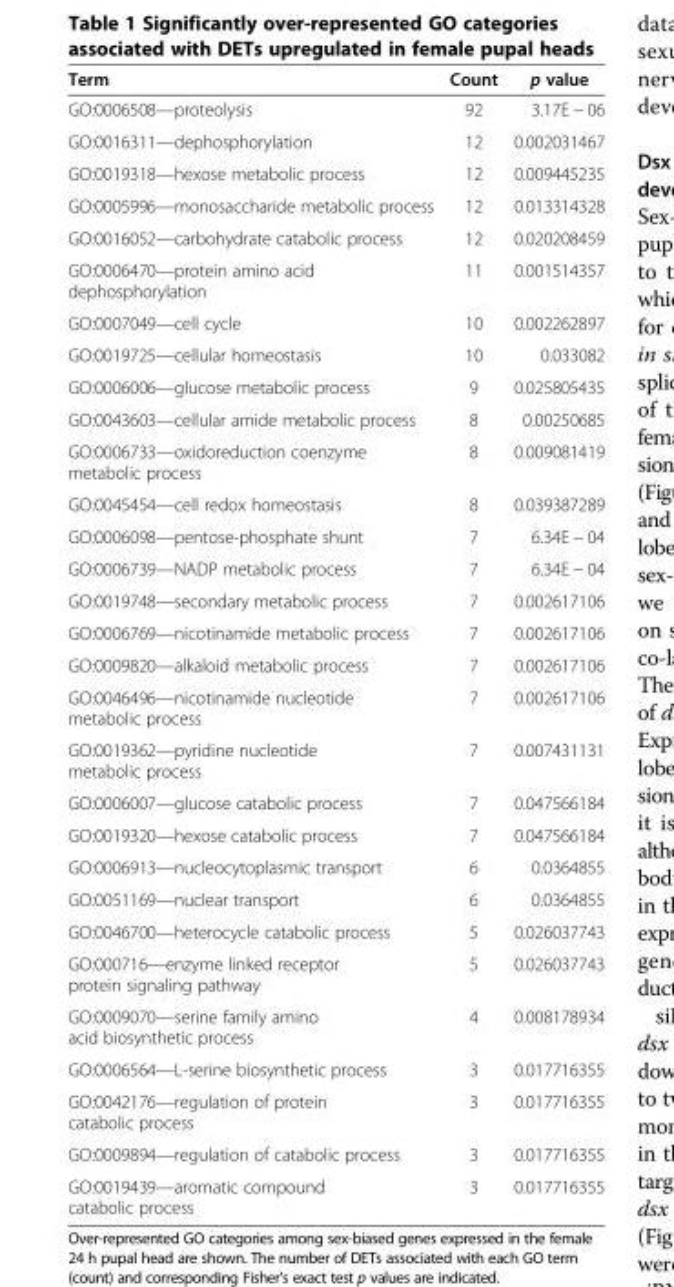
<table><thead><tr><td>Term</td><td>Count</td><td>p value</td></tr></thead><tbody><tr><td>GO:0006508—proteolysis</td><td>92</td><td>3.17E − 06</td></tr><tr><td>GO:0016311—dephosphorylation</td><td>12</td><td>0.002031467</td></tr><tr><td>GO:0019318—hexose metabolic process</td><td>12</td><td>0.009445235</td></tr><tr><td>GO:0005996—monosaccharide metabolic process</td><td>12</td><td>0.013314328</td></tr><tr><td>GO:0016052—carbohydrate catabolic process</td><td>12</td><td>0.020208459</td></tr><tr><td>GO:0006470—protein amino acid dephosphorylation</td><td>11</td><td>0.001514357</td></tr><tr><td>GO:0007049—cell cycle</td><td>10</td><td>0.002262897</td></tr><tr><td>GO:0019725—cellular homeostasis</td><td>10</td><td>0.033082</td></tr><tr><td>GO:0006006—glucose metabolic process</td><td>9</td><td>0.025805435</td></tr><tr><td>GO:0043603—cellular amide metabolic process</td><td>8</td><td>0.00250685</td></tr><tr><td>GO:0006733—oxidoreduction coenzyme metabolic process</td><td>8</td><td>0.009081419</td></tr><tr><td>GO:0045454—cell redox homeostasis</td><td>8</td><td>0.039387289</td></tr><tr><td>GO:0006098—pentose-phosphate shunt</td><td>7</td><td>6.34E − 04</td></tr><tr><td>GO:0006739—NADP metabolic process</td><td>7</td><td>6.34E − 04</td></tr><tr><td>GO:0019748—secondary metabolic process</td><td>7</td><td>0.002617106</td></tr><tr><td>GO:0006769—nicotinamide metabolic process</td><td>7</td><td>0.002617106</td></tr><tr><td>GO:0009820—alkaloid metabolic process</td><td>7</td><td>0.002617106</td></tr><tr><td>GO:0046496—nicotinamide nucleotide metabolic process</td><td>7</td><td>0.002617106</td></tr><tr><td>GO:0019362—pyridine nucleotide metabolic process</td><td>7</td><td>0.007431131</td></tr><tr><td>GO:0006007—glucose catabolic process</td><td>7</td><td>0.047566184</td></tr><tr><td>GO:0019320—hexose catabolic process</td><td>7</td><td>0.047566184</td></tr><tr><td>GO:0006913—nucleocytoplasmic transport</td><td>6</td><td>0.0364855</td></tr><tr><td>GO:0051169—nuclear transport</td><td>6</td><td>0.0364855</td></tr><tr><td>GO:0046700—heterocycle catabolic process</td><td>5</td><td>0.026037743</td></tr><tr><td>GO:000716—enzyme linked receptor protein signaling pathway</td><td>5</td><td>0.026037743</td></tr><tr><td>GO:0009070—serine family amino acid biosynthetic process</td><td>4</td><td>0.008178934</td></tr><tr><td>GO:0006564—L-serine biosynthetic process</td><td>3</td><td>0.017716355</td></tr><tr><td>GO:0042176—regulation of protein catabolic process</td><td>3</td><td>0.017716355</td></tr><tr><td>GO:0009894—regulation of catabolic process</td><td>3</td><td>0.017716355</td></tr><tr><td>GO:0019439—aromatic compound catabolic process</td><td>3</td><td>0.017716355</td></tr></tbody></table>